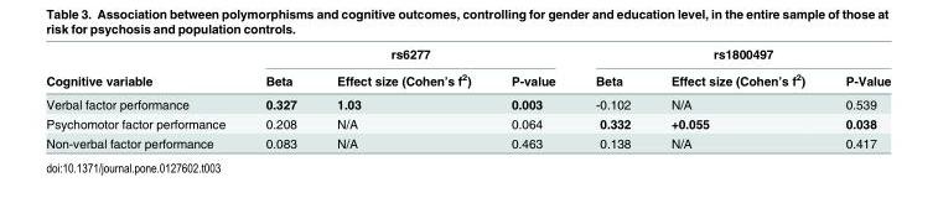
<table><thead><tr><td rowspan="2">Cognitive variable</td><td colspan="3">rs6277</td><td colspan="3">rs1800497</td></tr><tr><td>Beta</td><td>Effect size (Cohen’s f<sup>2</sup>)</td><td>P-value</td><td>Beta</td><td>Effect size (Cohen’s f<sup>2</sup>)</td><td>P-Value</td></tr></thead><tbody><tr><td>Verbal factor performance</td><td>0.327</td><td>1.03</td><td>0.003</td><td>-0.102</td><td>N/A</td><td>0.539</td></tr><tr><td>Psychomotor factor performance</td><td>0.208</td><td>N/A</td><td>0.064</td><td>0.332</td><td>+0.055</td><td>0.038</td></tr><tr><td>Non-verbal factor performance</td><td>0.083</td><td>N/A</td><td>0.463</td><td>0.138</td><td>N/A</td><td>0.417</td></tr></tbody></table>